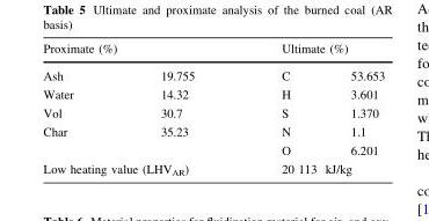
<table><thead><tr><td colspan="2">Proximate (%)</td><td colspan="2">Ultimate (%)</td></tr><tr><td>Ash</td><td>19.755</td><td>C</td><td>53.653</td></tr></thead><tbody><tr><td>Water</td><td>14.32</td><td>H</td><td>3.601</td></tr><tr><td>Vol</td><td>30.7</td><td>S</td><td>1.370</td></tr><tr><td>Char</td><td>35.23</td><td>N</td><td>1.1</td></tr><tr><td colspan="2"></td><td>O</td><td>6.201</td></tr><tr><td colspan="2">Low heating value (LHV<sub>AR</sub>)</td><td colspan="2">20 113 kJ/kg</td></tr></tbody></table>